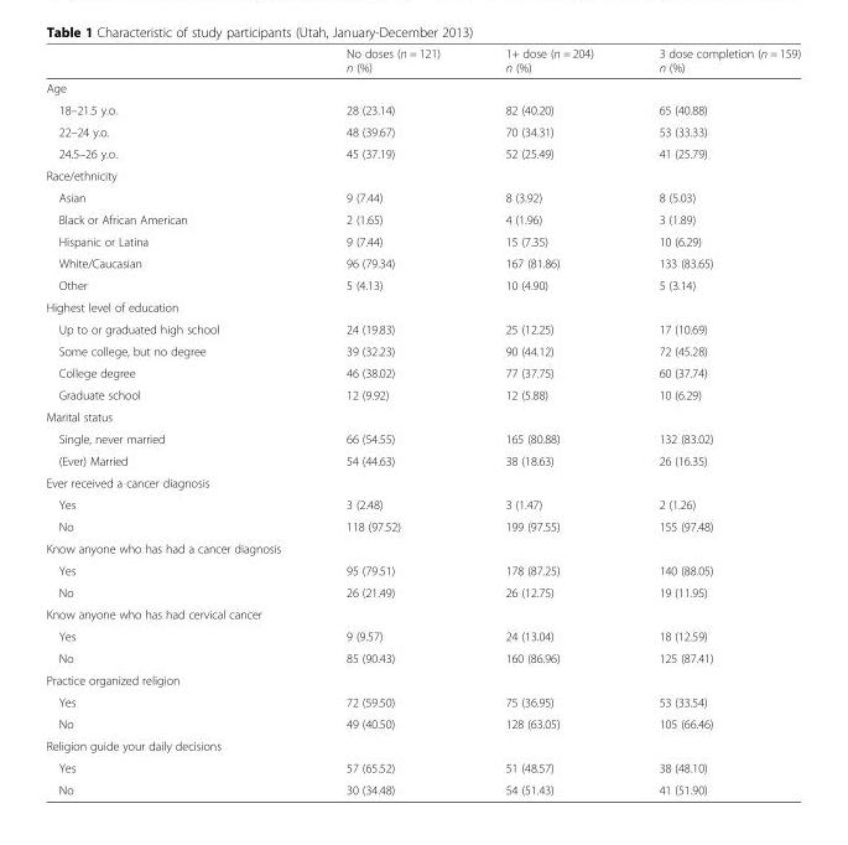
<table><thead><tr><td></td><td>No doses (n = 121) n (%)</td><td>1+ dose (n = 204) n (%)</td><td>3 dose completion (n = 159) n (%)</td></tr></thead><tbody><tr><td colspan="4">Age</td></tr><tr><td>18–21.5 y.o.</td><td>28 (23.14)</td><td>82 (40.20)</td><td>65 (40.88)</td></tr><tr><td>22–24 y.o.</td><td>48 (39.67)</td><td>70 (34.31)</td><td>53 (33.33)</td></tr><tr><td>24.5–26 y.o.</td><td>45 (37.19)</td><td>52 (25.49)</td><td>41 (25.79)</td></tr><tr><td colspan="4">Race/ethnicity</td></tr><tr><td>Asian</td><td>9 (7.44)</td><td>8 (3.92)</td><td>8 (5.03)</td></tr><tr><td>Black or African American</td><td>2 (1.65)</td><td>4 (1.96)</td><td>3 (1.89)</td></tr><tr><td>Hispanic or Latina</td><td>9 (7.44)</td><td>15 (7.35)</td><td>10 (6.29)</td></tr><tr><td>White/Caucasian</td><td>96 (79.34)</td><td>167 (81.86)</td><td>133 (83.65)</td></tr><tr><td>Other</td><td>5 (4.13)</td><td>10 (4.90)</td><td>5 (3.14)</td></tr><tr><td colspan="4">Highest level of education</td></tr><tr><td>Up to or graduated high school</td><td>24 (19.83)</td><td>25 (12.25)</td><td>17 (10.69)</td></tr><tr><td>Some college, but no degree</td><td>39 (32.23)</td><td>90 (44.12)</td><td>72 (45.28)</td></tr><tr><td>College degree</td><td>46 (38.02)</td><td>77 (37.75)</td><td>60 (37.74)</td></tr><tr><td>Graduate school</td><td>12 (9.92)</td><td>12 (5.88)</td><td>10 (6.29)</td></tr><tr><td colspan="4">Marital status</td></tr><tr><td>Single, never married</td><td>66 (54.55)</td><td>165 (80.88)</td><td>132 (83.02)</td></tr><tr><td>(Ever) Married</td><td>54 (44.63)</td><td>38 (18.63)</td><td>26 (16.35)</td></tr><tr><td colspan="4">Ever received a cancer diagnosis</td></tr><tr><td>Yes</td><td>3 (2.48)</td><td>3 (1.47)</td><td>2 (1.26)</td></tr><tr><td>No</td><td>118 (97.52)</td><td>199 (97.55)</td><td>155 (97.48)</td></tr><tr><td colspan="4">Know anyone who has had a cancer diagnosis</td></tr><tr><td>Yes</td><td>95 (79.51)</td><td>178 (87.25)</td><td>140 (88.05)</td></tr><tr><td>No</td><td>26 (21.49)</td><td>26 (12.75)</td><td>19 (11.95)</td></tr><tr><td colspan="4">Know anyone who has had cervical cancer</td></tr><tr><td>Yes</td><td>9 (9.57)</td><td>24 (13.04)</td><td>18 (12.59)</td></tr><tr><td>No</td><td>85 (90.43)</td><td>160 (86.96)</td><td>125 (87.41)</td></tr><tr><td colspan="4">Practice organized religion</td></tr><tr><td>Yes</td><td>72 (59.50)</td><td>75 (36.95)</td><td>53 (33.54)</td></tr><tr><td>No</td><td>49 (40.50)</td><td>128 (63.05)</td><td>105 (66.46)</td></tr><tr><td colspan="4">Religion guide your daily decisions</td></tr><tr><td>Yes</td><td>57 (65.52)</td><td>51 (48.57)</td><td>38 (48.10)</td></tr><tr><td>No</td><td>30 (34.48)</td><td>54 (51.43)</td><td>41 (51.90)</td></tr></tbody></table>